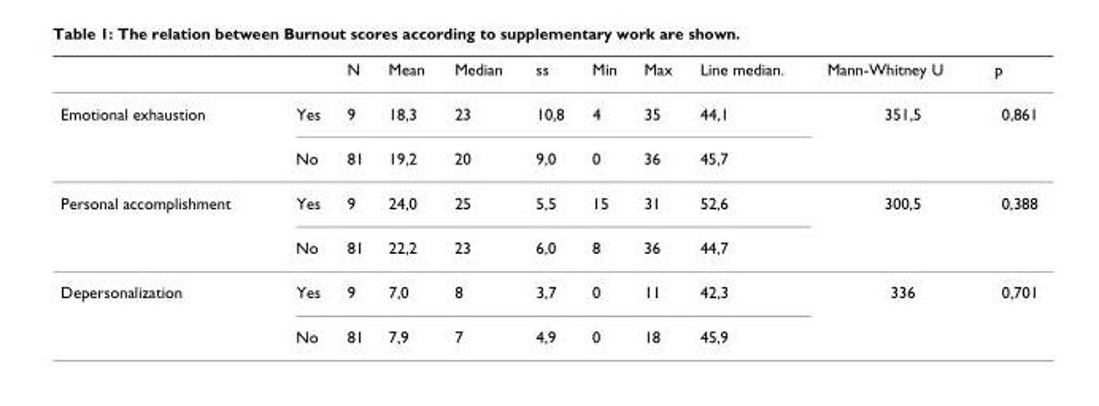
<table><thead><tr><td></td><td></td><td>N</td><td>Mean</td><td>Median</td><td>ss</td><td>Min</td><td>Max</td><td>Line median.</td><td>Mann-Whitney U</td><td>p</td></tr></thead><tbody><tr><td rowspan="2">Emotional exhaustion</td><td>Yes</td><td>9</td><td>18,3</td><td>23</td><td>10,8</td><td>4</td><td>35</td><td>44,1</td><td>351,5</td><td>0,861</td></tr><tr><td>No</td><td>81</td><td>19,2</td><td>20</td><td>9,0</td><td>0</td><td>36</td><td>45,7</td><td></td><td></td></tr><tr><td rowspan="2">Personal accomplishment</td><td>Yes</td><td>9</td><td>24,0</td><td>25</td><td>5,5</td><td>15</td><td>31</td><td>52,6</td><td>300,5</td><td>0,388</td></tr><tr><td>No</td><td>81</td><td>22,2</td><td>23</td><td>6,0</td><td>8</td><td>36</td><td>44,7</td><td></td><td></td></tr><tr><td rowspan="2">Depersonalization</td><td>Yes</td><td>9</td><td>7,0</td><td>8</td><td>3,7</td><td>0</td><td>11</td><td>42,3</td><td>336</td><td>0,701</td></tr><tr><td>No</td><td>81</td><td>7,9</td><td>7</td><td>4,9</td><td>0</td><td>18</td><td>45,9</td><td></td><td></td></tr></tbody></table>